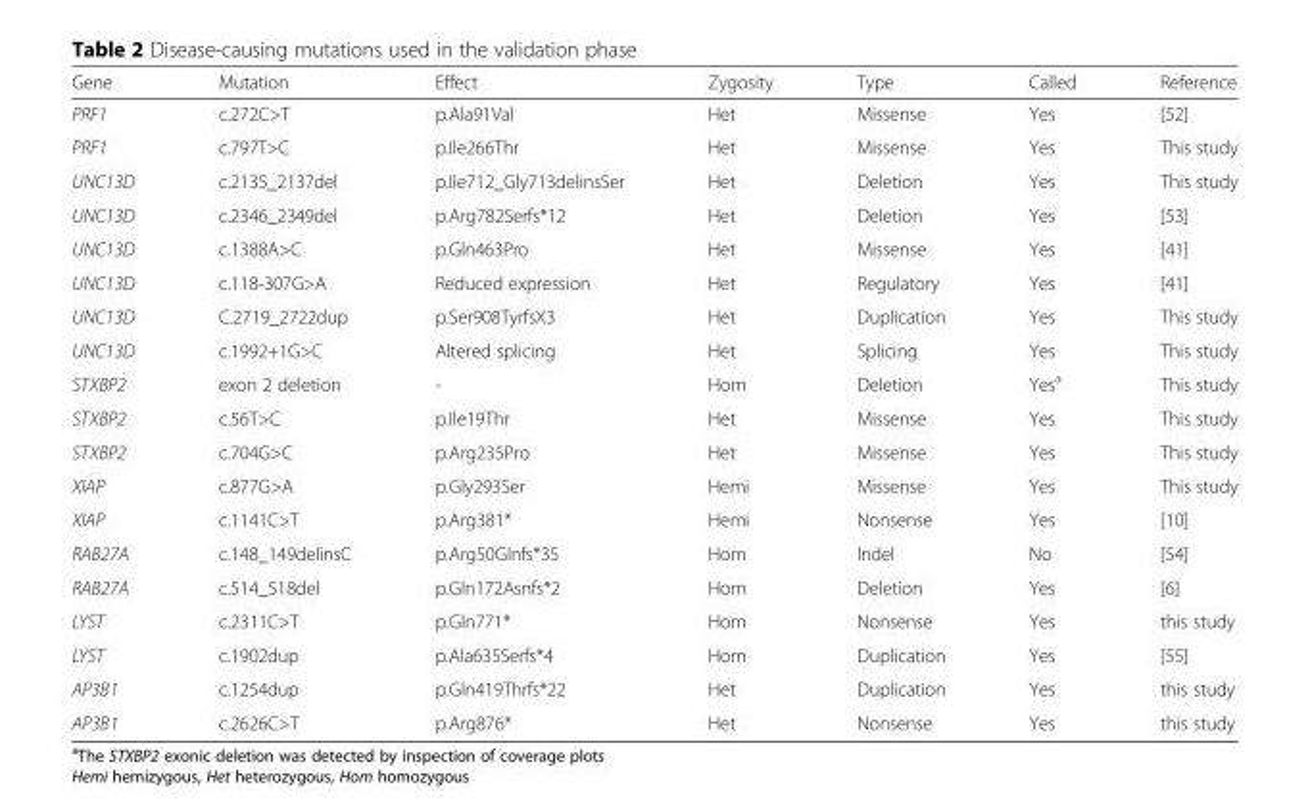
<table><thead><tr><td>Gene</td><td>Mutation</td><td>Effect</td><td>Zygosity</td><td>Type</td><td>Called</td><td>Reference</td></tr></thead><tbody><tr><td>PRF1</td><td>c.272C&gt;T</td><td>p.Ala91Val</td><td>Het</td><td>Missense</td><td>Yes</td><td>[52]</td></tr><tr><td>PRF1</td><td>c.797T&gt;C</td><td>p.Ile266Thr</td><td>Het</td><td>Missense</td><td>Yes</td><td>This study</td></tr><tr><td>UNC13D</td><td>c.2135_2137del</td><td>p.Ile712_Gly713delinsSer</td><td>Het</td><td>Deletion</td><td>Yes</td><td>This study</td></tr><tr><td>UNC13D</td><td>c.2346_2349del</td><td>p.Arg782Serfs*12</td><td>Het</td><td>Deletion</td><td>Yes</td><td>[53]</td></tr><tr><td>UNC13D</td><td>c.1388A&gt;C</td><td>p.Gln463Pro</td><td>Het</td><td>Missense</td><td>Yes</td><td>[41]</td></tr><tr><td>UNC13D</td><td>c.118-307G&gt;A</td><td>Reduced expression</td><td>Het</td><td>Regulatory</td><td>Yes</td><td>[41]</td></tr><tr><td>UNC13D</td><td>C.2719_2722dup</td><td>p.Ser908TyrfsX3</td><td>Het</td><td>Duplication</td><td>Yes</td><td>This study</td></tr><tr><td>UNC13D</td><td>c.1992+1G&gt;C</td><td>Altered splicing</td><td>Het</td><td>Splicing</td><td>Yes</td><td>This study</td></tr><tr><td>STXBP2</td><td>exon 2 deletion</td><td>-</td><td>Hom</td><td>Deletion</td><td>Yes<sup>a</sup></td><td>This study</td></tr><tr><td>STXBP2</td><td>c.56T&gt;C</td><td>p.Ile19Thr</td><td>Het</td><td>Missense</td><td>Yes</td><td>This study</td></tr><tr><td>STXBP2</td><td>c.704G&gt;C</td><td>p.Arg235Pro</td><td>Het</td><td>Missense</td><td>Yes</td><td>This study</td></tr><tr><td>XIAP</td><td>c.877G&gt;A</td><td>p.Gly293Ser</td><td>Hemi</td><td>Missense</td><td>Yes</td><td>This study</td></tr><tr><td>XIAP</td><td>c.1141C&gt;T</td><td>p.Arg381*</td><td>Hemi</td><td>Nonsense</td><td>Yes</td><td>[10]</td></tr><tr><td>RAB27A</td><td>c.148_149delinsC</td><td>p.Arg50Glnfs*35</td><td>Hom</td><td>Indel</td><td>No</td><td>[54]</td></tr><tr><td>RAB27A</td><td>c.514_518del</td><td>p.Gln172Asnfs*2</td><td>Hom</td><td>Deletion</td><td>Yes</td><td>[6]</td></tr><tr><td>LYST</td><td>c.2311C&gt;T</td><td>p.Gln771*</td><td>Hom</td><td>Nonsense</td><td>Yes</td><td>this study</td></tr><tr><td>LYST</td><td>c.1902dup</td><td>p.Ala635Serfs*4</td><td>Hom</td><td>Duplication</td><td>Yes</td><td>[55]</td></tr><tr><td>AP3B1</td><td>c.1254dup</td><td>p.Gln419Thrfs*22</td><td>Het</td><td>Duplication</td><td>Yes</td><td>this study</td></tr><tr><td>AP3B1</td><td>c.2626C&gt;T</td><td>p.Arg876*</td><td>Het</td><td>Nonsense</td><td>Yes</td><td>this study</td></tr></tbody></table>